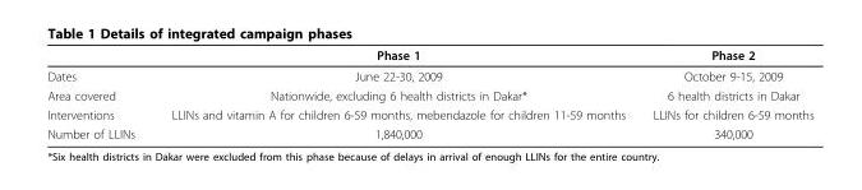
<table><thead><tr><td></td><td>Phase 1</td><td>Phase 2</td></tr></thead><tbody><tr><td>Dates</td><td>June 22-30, 2009</td><td>October 9-15, 2009</td></tr><tr><td>Area covered</td><td>Nationwide, excluding 6 health districts in Dakar*</td><td>6 health districts in Dakar</td></tr><tr><td>Interventions</td><td>LLINs and vitamin A for children 6-59 months, mebendazole for children 11-59 months</td><td>LLINs for children 6-59 months</td></tr><tr><td>Number of LLINs</td><td>1,840,000</td><td>340,000</td></tr></tbody></table>